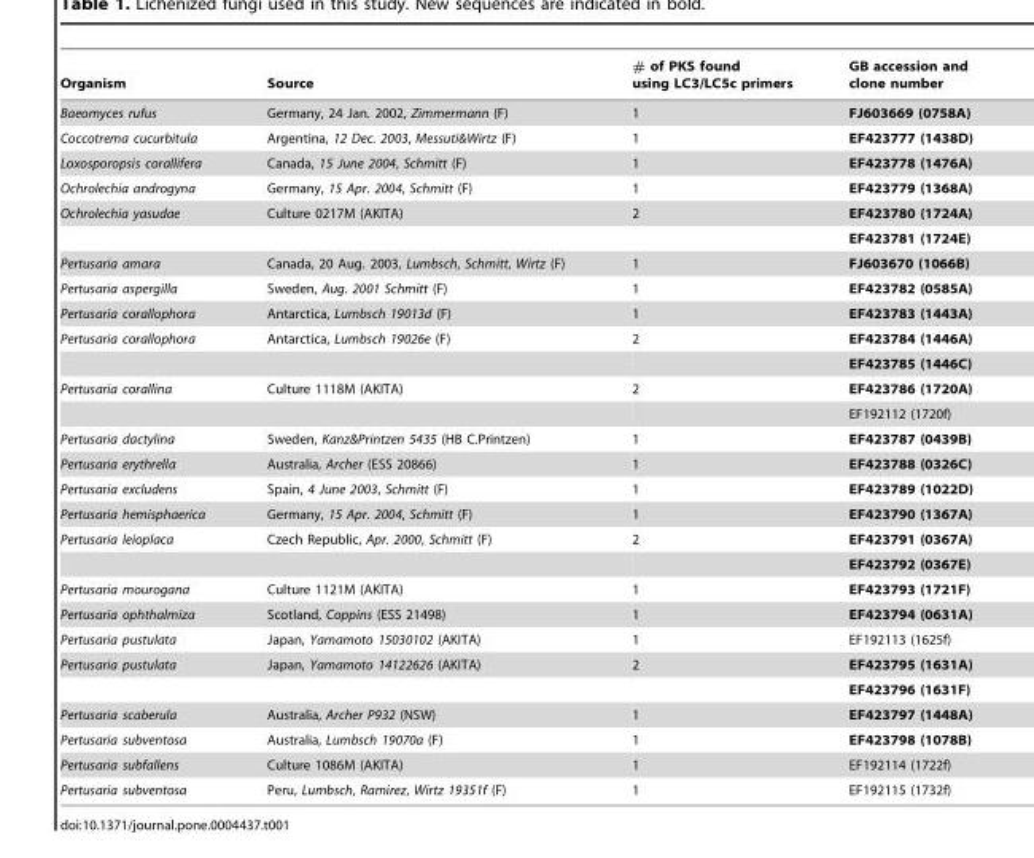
<table><thead><tr><td>Organism</td><td>Source</td><td># of PKS found using LC3/LC5c primers</td><td>GB accession and clone number</td></tr></thead><tbody><tr><td>Baeomyces rufus</td><td>Germany, 24 Jan. 2002, Zimmermann (F)</td><td>1</td><td>FJ603669 (0758A)</td></tr><tr><td>Coccotrema cucurbitula</td><td>Argentina, 12 Dec. 2003, Messuti&amp;Wirtz (F)</td><td>1</td><td>EF423777 (1438D)</td></tr><tr><td>Loxosporopsis corallifera</td><td>Canada, 15 June 2004, Schmitt (F)</td><td>1</td><td>EF423778 (1476A)</td></tr><tr><td>Ochrolechia androgyna</td><td>Germany, 15 Apr. 2004, Schmitt (F)</td><td>1</td><td>EF423779 (1368A)</td></tr><tr><td rowspan="2">Ochrolechia yasudae</td><td>Culture 0217M (AKITA)</td><td>2</td><td>EF423780 (1724A)</td></tr><tr><td></td><td></td><td>EF423781 (1724E)</td></tr><tr><td>Pertusaria amara</td><td>Canada, 20 Aug. 2003, Lumbsch, Schmitt, Wirtz (F)</td><td>1</td><td>FJ603670 (1066B)</td></tr><tr><td>Pertusaria aspergilla</td><td>Sweden, Aug. 2001 Schmitt (F)</td><td>1</td><td>EF423782 (0585A)</td></tr><tr><td>Pertusaria corallophora</td><td>Antarctica, Lumbsch 19013d (F)</td><td>1</td><td>EF423783 (1443A)</td></tr><tr><td rowspan="2">Pertusaria corallophora</td><td>Antarctica, Lumbsch 19026e (F)</td><td>2</td><td>EF423784 (1446A)</td></tr><tr><td></td><td></td><td>EF423785 (1446C)</td></tr><tr><td rowspan="2">Pertusaria corallina</td><td>Culture 1118M (AKITA)</td><td>2</td><td>EF423786 (1720A)</td></tr><tr><td></td><td></td><td>EF192112 (1720f)</td></tr><tr><td>Pertusaria dactylina</td><td>Sweden, Kanz&amp;Printzen 5435 (HB C.Printzen)</td><td>1</td><td>EF423787 (0439B)</td></tr><tr><td>Pertusaria erythrella</td><td>Australia, Archer (ESS 20866)</td><td>1</td><td>EF423788 (0326C)</td></tr><tr><td>Pertusaria excludens</td><td>Spain, 4 June 2003, Schmitt (F)</td><td>1</td><td>EF423789 (1022D)</td></tr><tr><td>Pertusaria hemisphaerica</td><td>Germany, 15 Apr. 2004, Schmitt (F)</td><td>1</td><td>EF423790 (1367A)</td></tr><tr><td rowspan="2">Pertusaria leioplaca</td><td>Czech Republic, Apr. 2000, Schmitt (F)</td><td>2</td><td>EF423791 (0367A)</td></tr><tr><td></td><td></td><td>EF423792 (0367E)</td></tr><tr><td>Pertusaria mourogana</td><td>Culture 1121M (AKITA)</td><td>1</td><td>EF423793 (1721F)</td></tr><tr><td>Pertusaria ophthalmiza</td><td>Scotland, Coppins (ESS 21498)</td><td>1</td><td>EF423794 (0631A)</td></tr><tr><td>Pertusaria pustulata</td><td>Japan, Yamamoto 15030102 (AKITA)</td><td>1</td><td>EF192113 (1625f)</td></tr><tr><td rowspan="2">Pertusaria pustulata</td><td>Japan, Yamamoto 14122626 (AKITA)</td><td>2</td><td>EF423795 (1631A)</td></tr><tr><td></td><td></td><td>EF423796 (1631F)</td></tr><tr><td>Pertusaria scaberula</td><td>Australia, Archer P932 (NSW)</td><td>1</td><td>EF423797 (1448A)</td></tr><tr><td>Pertusaria subventosa</td><td>Australia, Lumbsch 19070a (F)</td><td>1</td><td>EF423798 (1078B)</td></tr><tr><td>Pertusaria subfallens</td><td>Culture 1086M (AKITA)</td><td>1</td><td>EF192114 (1722f)</td></tr><tr><td>Pertusaria subventosa</td><td>Peru, Lumbsch, Ramirez, Wirtz 19351f (F)</td><td>1</td><td>EF192115 (1732f)</td></tr></tbody></table>